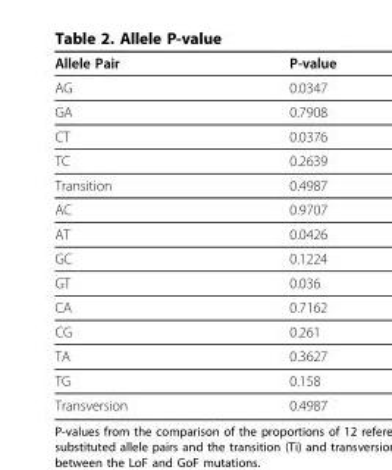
<table><thead><tr><td>Allele Pair</td><td>P-value</td></tr></thead><tbody><tr><td>AG</td><td>0.0347</td></tr><tr><td>GA</td><td>0.7908</td></tr><tr><td>CT</td><td>0.0376</td></tr><tr><td>TC</td><td>0.2639</td></tr><tr><td>Transition</td><td>0.4987</td></tr><tr><td>AC</td><td>0.9707</td></tr><tr><td>AT</td><td>0.0426</td></tr><tr><td>GC</td><td>0.1224</td></tr><tr><td>GT</td><td>0.036</td></tr><tr><td>CA</td><td>0.7162</td></tr><tr><td>CG</td><td>0.261</td></tr><tr><td>TA</td><td>0.3627</td></tr><tr><td>TG</td><td>0.158</td></tr><tr><td>Transversion</td><td>0.4987</td></tr></tbody></table>